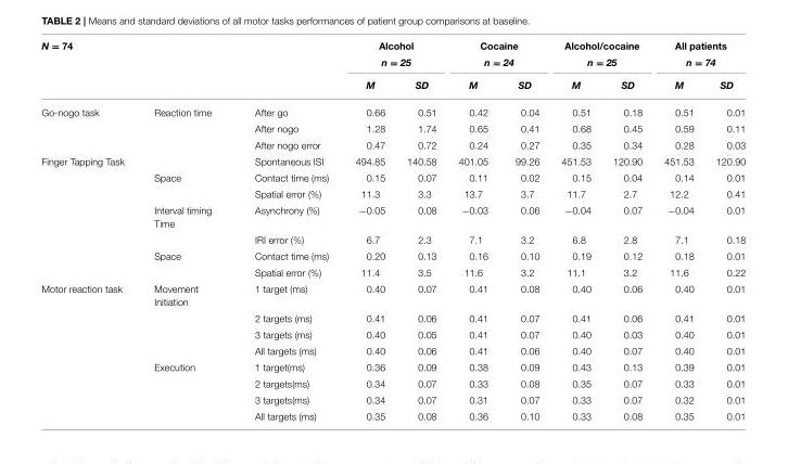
<table><thead><tr><td rowspan="3">N = 74</td><td rowspan="3"></td><td rowspan="3"></td><td rowspan="2" colspan="2">Alcohol n = 25</td><td rowspan="2" colspan="2">Cocaine n = 24</td><td rowspan="2" colspan="2">Alcohol/cocaine n = 25</td><td rowspan="2" colspan="2">All patients n = 74</td></tr><tr></tr><tr><td>M</td><td>SD</td><td>M</td><td>SD</td><td>M</td><td>SD</td><td>M</td><td>SD</td></tr></thead><tbody><tr><td rowspan="3">Go-nogo task</td><td>Reaction time</td><td>After go</td><td>0.66</td><td>0.51</td><td>0.42</td><td>0.04</td><td>0.51</td><td>0.18</td><td>0.51</td><td>0.01</td></tr><tr><td></td><td>After nogo</td><td>1.28</td><td>1.74</td><td>0.65</td><td>0.41</td><td>0.68</td><td>0.45</td><td>0.59</td><td>0.11</td></tr><tr><td></td><td>After nogo error</td><td>0.47</td><td>0.72</td><td>0.24</td><td>0.27</td><td>0.35</td><td>0.34</td><td>0.28</td><td>0.03</td></tr><tr><td rowspan="7">Finger Tapping Task</td><td></td><td>Spontaneous ISI</td><td>494.85</td><td>140.58</td><td>401.05</td><td>99.26</td><td>451.53</td><td>120.90</td><td>451.53</td><td>120.90</td></tr><tr><td>Space</td><td>Contact time (ms)</td><td>0.15</td><td>0.07</td><td>0.11</td><td>0.02</td><td>0.15</td><td>0.04</td><td>0.14</td><td>0.01</td></tr><tr><td></td><td>Spatial error (%)</td><td>11.3</td><td>3.3</td><td>13.7</td><td>3.7</td><td>11.7</td><td>2.7</td><td>12.2</td><td>0.41</td></tr><tr><td>Interval timing Time</td><td>Asynchrony (%)</td><td>−0.05</td><td>0.08</td><td>−0.03</td><td>0.06</td><td>−0.04</td><td>0.07</td><td>−0.04</td><td>0.01</td></tr><tr><td></td><td>IRI error (%)</td><td>6.7</td><td>2.3</td><td>7.1</td><td>3.2</td><td>6.8</td><td>2.8</td><td>7.1</td><td>0.18</td></tr><tr><td>Space</td><td>Contact time (ms)</td><td>0.20</td><td>0.13</td><td>0.16</td><td>0.10</td><td>0.19</td><td>0.12</td><td>0.18</td><td>0.01</td></tr><tr><td></td><td>Spatial error (%)</td><td>11.4</td><td>3.5</td><td>11.6</td><td>3.2</td><td>11.1</td><td>3.2</td><td>11.6</td><td>0.22</td></tr><tr><td rowspan="8">Motor reaction task</td><td>Movement Initiation</td><td>1 target (ms)</td><td>0.40</td><td>0.07</td><td>0.41</td><td>0.08</td><td>0.40</td><td>0.06</td><td>0.40</td><td>0.01</td></tr><tr><td></td><td>2 targets (ms)</td><td>0.41</td><td>0.06</td><td>0.41</td><td>0.07</td><td>0.41</td><td>0.06</td><td>0.41</td><td>0.01</td></tr><tr><td></td><td>3 targets (ms)</td><td>0.40</td><td>0.05</td><td>0.41</td><td>0.07</td><td>0.40</td><td>0.03</td><td>0.40</td><td>0.01</td></tr><tr><td></td><td>All targets (ms)</td><td>0.40</td><td>0.06</td><td>0.41</td><td>0.06</td><td>0.40</td><td>0.07</td><td>0.40</td><td>0.01</td></tr><tr><td>Execution</td><td>1 target(ms)</td><td>0.36</td><td>0.09</td><td>0.38</td><td>0.09</td><td>0.43</td><td>0.13</td><td>0.39</td><td>0.01</td></tr><tr><td></td><td>2 targets(ms)</td><td>0.34</td><td>0.07</td><td>0.33</td><td>0.08</td><td>0.35</td><td>0.07</td><td>0.33</td><td>0.01</td></tr><tr><td></td><td>3 targets(ms)</td><td>0.34</td><td>0.07</td><td>0.31</td><td>0.07</td><td>0.33</td><td>0.07</td><td>0.32</td><td>0.01</td></tr><tr><td></td><td>All targets (ms)</td><td>0.35</td><td>0.08</td><td>0.36</td><td>0.10</td><td>0.33</td><td>0.08</td><td>0.35</td><td>0.01</td></tr></tbody></table>